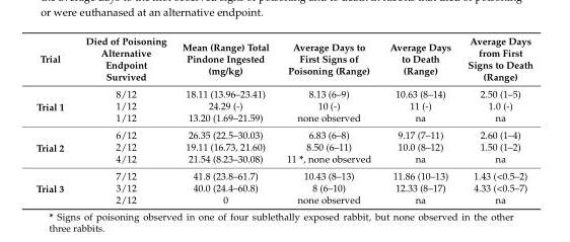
<table><thead><tr><td>Trial</td><td>Died of Poisoning Alternative Endpoint Survived</td><td>Mean (Range) Total Pindone Ingested (mg/kg)</td><td>Average Days to First Signs of Poisoning (Range)</td><td>Average Days to Death (Range)</td><td>Average Days from First Signs to Death (Range)</td></tr></thead><tbody><tr><td rowspan="3">Trial 1</td><td>8/12</td><td>18.11 (13.96–23.41)</td><td>8.13 (6–9)</td><td>10.63 (8–14)</td><td>2.50 (1–5)</td></tr><tr><td>1/12</td><td>24.29 (-)</td><td>10 (-)</td><td>11 (-)</td><td>1.0 (-)</td></tr><tr><td>1/12</td><td>13.20 (1.69–21.59)</td><td>none observed</td><td>na</td><td>na</td></tr><tr><td rowspan="3">Trial 2</td><td>6/12</td><td>26.35 (22.5–30.03)</td><td>6.83 (6–8)</td><td>9.17 (7–11)</td><td>2.60 (1–4)</td></tr><tr><td>2/12</td><td>19.11 (16.73, 21.60)</td><td>8.50 (6–11)</td><td>10.0 (8–12)</td><td>1.50 (1–2)</td></tr><tr><td>4/12</td><td>21.54 (8.23–30.08)</td><td>11 *, none observed</td><td>na</td><td>na</td></tr><tr><td rowspan="3">Trial 3</td><td>7/12</td><td>41.8 (23.8–61.7)</td><td>10.43 (8–13)</td><td>11.86 (10–13)</td><td>1.43 (&lt;0.5–2)</td></tr><tr><td>3/12</td><td>40.0 (24.4–60.8)</td><td>8 (6–10)</td><td>12.33 (8–17)</td><td>4.33 (&lt;0.5–7)</td></tr><tr><td>2/12</td><td>0</td><td>none observed</td><td>na</td><td>na</td></tr></tbody></table>